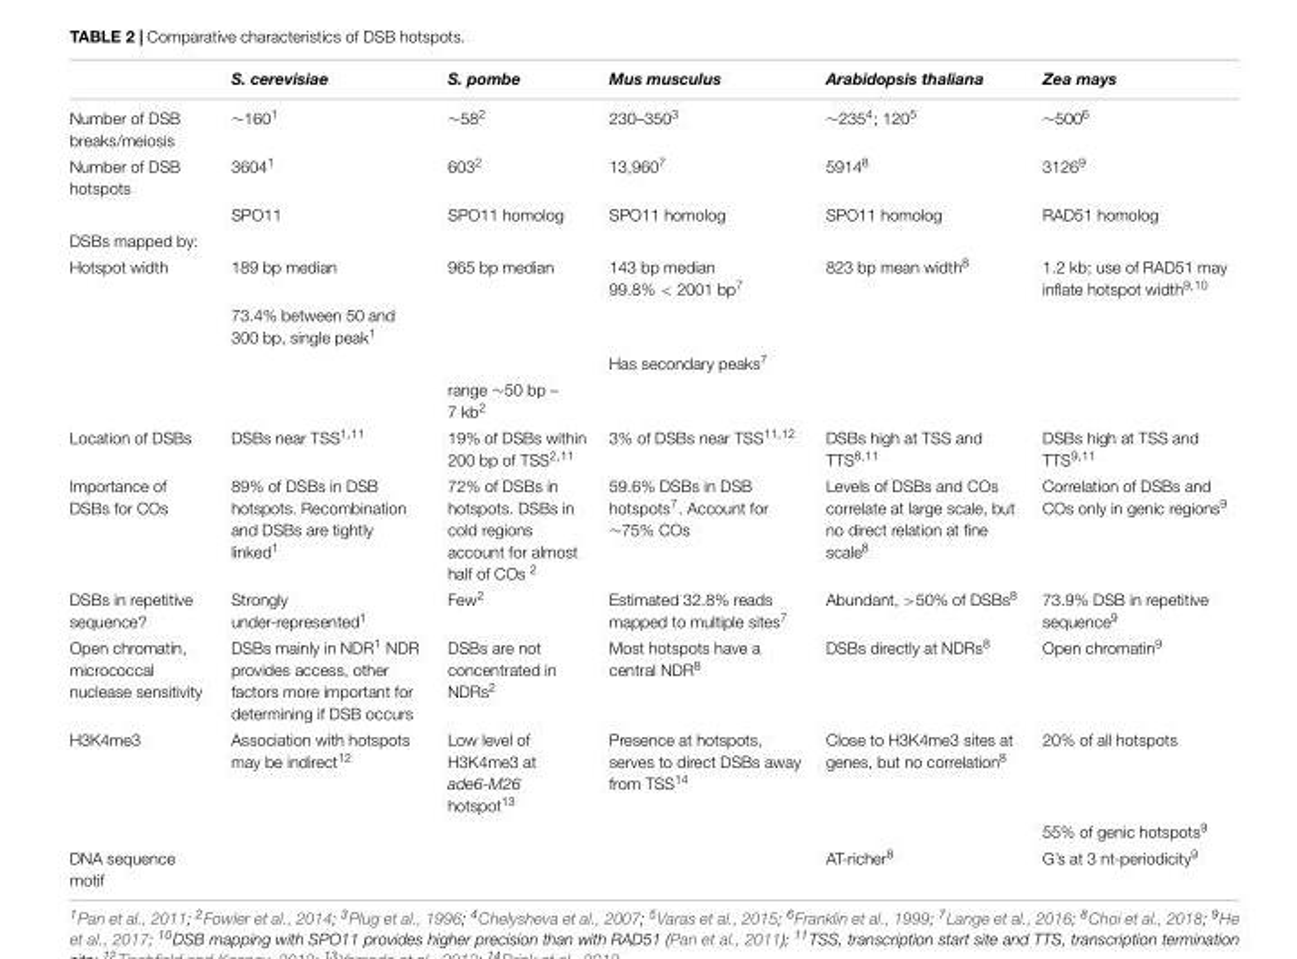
<table><thead><tr><td></td><td>S. cerevisiae</td><td>S. pombe</td><td>Mus musculus</td><td>Arabidopsis thaliana</td><td>Zea mays</td></tr></thead><tbody><tr><td>Number of DSB breaks/meiosis</td><td>∼160<sup>1</sup></td><td>∼58<sup>2</sup></td><td>230–350<sup>3</sup></td><td>∼235<sup>4</sup>; 120<sup>5</sup></td><td>∼500<sup>6</sup></td></tr><tr><td rowspan="2">Number of DSB hotspots</td><td>3604<sup>1</sup></td><td>603<sup>2</sup></td><td>13,960<sup>7</sup></td><td>5914<sup>8</sup></td><td>3126<sup>9</sup></td></tr><tr><td>SPO11</td><td>SPO11 homolog</td><td>SPO11 homolog</td><td>SPO11 homolog</td><td>RAD51 homolog</td></tr><tr><td colspan="6">DSBs mapped by:</td></tr><tr><td rowspan="4">Hotspot width</td><td>189 bp median</td><td>965 bp median</td><td>143 bp median 99.8% &lt; 2001 bp<sup>7</sup></td><td>823 bp mean width<sup>8</sup></td><td>1.2 kb; use of RAD51 may inflate hotspot width<sup>9,10</sup></td></tr><tr><td>73.4% between 50 and 300 bp, single peak<sup>1</sup></td><td></td><td></td><td></td><td></td></tr><tr><td></td><td></td><td>Has secondary peaks<sup>7</sup></td><td></td><td></td></tr><tr><td></td><td>range ∼50 bp – 7 kb<sup>2</sup></td><td></td><td></td><td></td></tr><tr><td>Location of DSBs</td><td>DSBs near TSS<sup>1,11</sup></td><td>19% of DSBs within 200 bp of TSS<sup>2,11</sup></td><td>3% of DSBs near TSS<sup>11,12</sup></td><td>DSBs high at TSS and TTS<sup>8,11</sup></td><td>DSBs high at TSS and TTS<sup>9,11</sup></td></tr><tr><td>Importance of DSBs for COs</td><td>89% of DSBs in DSB hotspots. Recombination and DSBs are tightly linked<sup>1</sup></td><td>72% of DSBs in hotspots. DSBs in cold regions account for almost half of COs <sup>2</sup></td><td>59.6% DSBs in DSB hotspots<sup>7</sup>. Account for ∼75% COs</td><td>Levels of DSBs and COs correlate at large scale, but no direct relation at fine scale<sup>8</sup></td><td>Correlation of DSBs and COs only in genic regions<sup>9</sup></td></tr><tr><td>DSBs in repetitive sequence?</td><td>Strongly under-represented<sup>1</sup></td><td>Few<sup>2</sup></td><td>Estimated 32.8% reads mapped to multiple sites<sup>7</sup></td><td>Abundant, &gt;50% of DSBs<sup>8</sup></td><td>73.9% DSB in repetitive sequence<sup>9</sup></td></tr><tr><td>Open chromatin, micrococcal nuclease sensitivity</td><td>DSBs mainly in NDR<sup>1</sup> NDR provides access, other factors more important for determining if DSB occurs</td><td>DSBs are not concentrated in NDRs<sup>2</sup></td><td>Most hotspots have a central NDR<sup>8</sup></td><td>DSBs directly at NDRs<sup>8</sup></td><td>Open chromatin<sup>9</sup></td></tr><tr><td rowspan="2">H3K4me3</td><td>Association with hotspots may be indirect<sup>12</sup></td><td>Low level of H3K4me3 at ade6-M26 hotspot<sup>13</sup></td><td>Presence at hotspots, serves to direct DSBs away from TSS<sup>14</sup></td><td>Close to H3K4me3 sites at genes, but no correlation<sup>8</sup></td><td>20% of all hotspots</td></tr><tr><td></td><td></td><td></td><td></td><td>55% of genic hotspots<sup>9</sup></td></tr><tr><td>DNA sequence motif</td><td></td><td></td><td></td><td>AT-richer<sup>8</sup></td><td>G’s at 3 nt-periodicity<sup>9</sup></td></tr></tbody></table>